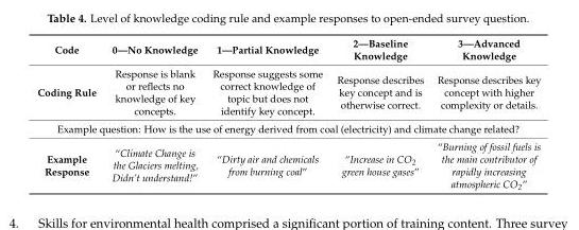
<table><thead><tr><td>Code</td><td>0—No Knowledge</td><td>1—Partial Knowledge</td><td>2—Baseline Knowledge</td><td>3—Advanced Knowledge</td></tr></thead><tbody><tr><td>Coding Rule</td><td>Response is blank or reflects no knowledge of key concepts.</td><td>Response suggests some correct knowledge of topic but does not identify key concept.</td><td>Response describes key concept and is otherwise correct.</td><td>Response describes key concept with higher complexity or details.</td></tr><tr><td colspan="5">Example question: How is the use of energy derived from coal (electricity) and climate change related?</td></tr><tr><td>Example Response</td><td>“Climate Change is the Glaciers melting, Didn’t understand!”</td><td>“Dirty air and chemicals from burning coal”</td><td>“Increase in CO<sub>2</sub> green house gases”</td><td>“Burning of fossil fuels is the main contributor of rapidly increasing atmospheric CO<sub>2</sub>”</td></tr></tbody></table>